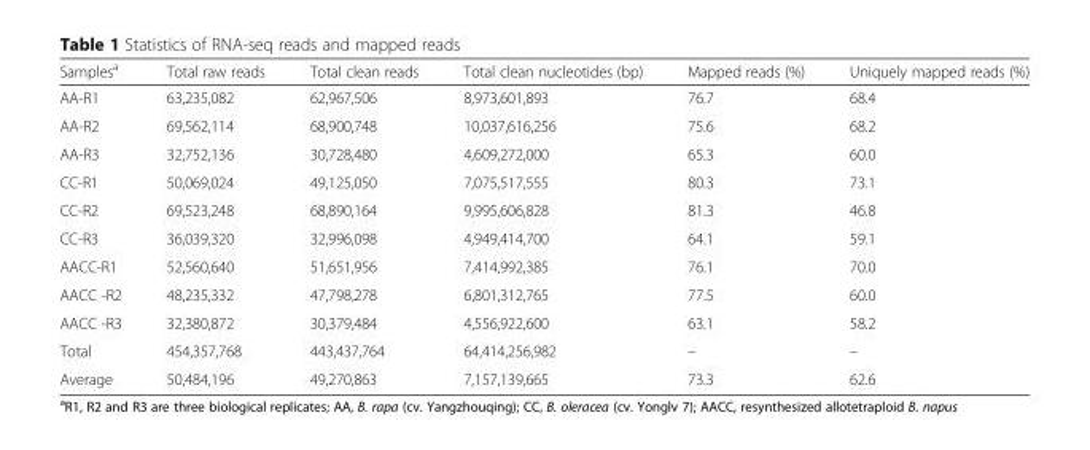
<table><thead><tr><td>Samples<sup>a</sup></td><td>Total raw reads</td><td>Total clean reads</td><td>Total clean nucleotides (bp)</td><td>Mapped reads (%)</td><td>Uniquely mapped reads (%)</td></tr></thead><tbody><tr><td>AA-R1</td><td>63,235,082</td><td>62,967,506</td><td>8,973,601,893</td><td>76.7</td><td>68.4</td></tr><tr><td>AA-R2</td><td>69,562,114</td><td>68,900,748</td><td>10,037,616,256</td><td>75.6</td><td>68.2</td></tr><tr><td>AA-R3</td><td>32,752,136</td><td>30,728,480</td><td>4,609,272,000</td><td>65.3</td><td>60.0</td></tr><tr><td>CC-R1</td><td>50,069,024</td><td>49,125,050</td><td>7,075,517,555</td><td>80.3</td><td>73.1</td></tr><tr><td>CC-R2</td><td>69,523,248</td><td>68,890,164</td><td>9,995,606,828</td><td>81.3</td><td>46.8</td></tr><tr><td>CC-R3</td><td>36,039,320</td><td>32,996,098</td><td>4,949,414,700</td><td>64.1</td><td>59.1</td></tr><tr><td>AACC-R1</td><td>52,560,640</td><td>51,651,956</td><td>7,414,992,385</td><td>76.1</td><td>70.0</td></tr><tr><td>AACC -R2</td><td>48,235,332</td><td>47,798,278</td><td>6,801,312,765</td><td>77.5</td><td>60.0</td></tr><tr><td>AACC -R3</td><td>32,380,872</td><td>30,379,484</td><td>4,556,922,600</td><td>63.1</td><td>58.2</td></tr><tr><td>Total</td><td>454,357,768</td><td>443,437,764</td><td>64,414,256,982</td><td>–</td><td>–</td></tr><tr><td>Average</td><td>50,484,196</td><td>49,270,863</td><td>7,157,139,665</td><td>73.3</td><td>62.6</td></tr></tbody></table>